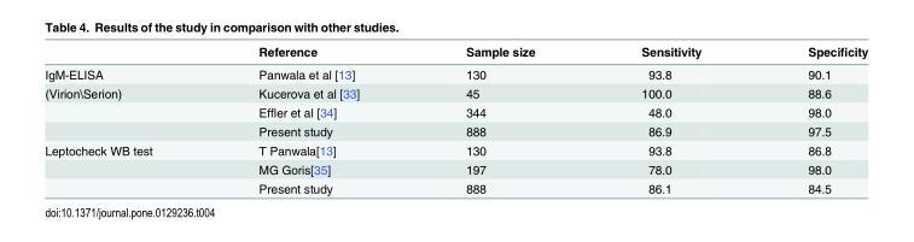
<table><thead><tr><td></td><td>Reference</td><td>Sample size</td><td>Sensitivity</td><td>Specificity</td></tr></thead><tbody><tr><td>IgM-ELISA</td><td>Panwala et al [13]</td><td>130</td><td>93.8</td><td>90.1</td></tr><tr><td rowspan="3">(Virion\Serion)</td><td>Kucerova et al [33]</td><td>45</td><td>100.0</td><td>88.6</td></tr><tr><td>Effler et al [34]</td><td>344</td><td>48.0</td><td>98.0</td></tr><tr><td>Present study</td><td>888</td><td>86.9</td><td>97.5</td></tr><tr><td rowspan="3">Leptocheck WB test</td><td>T Panwala[13]</td><td>130</td><td>93.8</td><td>86.8</td></tr><tr><td>MG Goris[35]</td><td>197</td><td>78.0</td><td>98.0</td></tr><tr><td>Present study</td><td>888</td><td>86.1</td><td>84.5</td></tr></tbody></table>